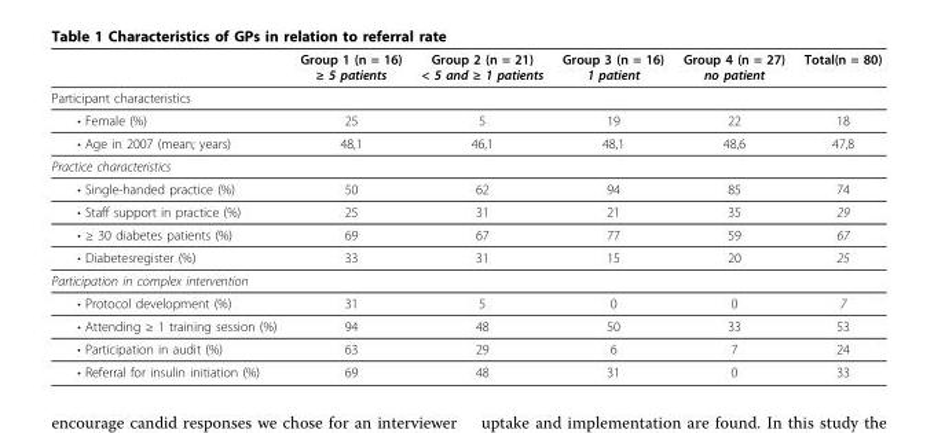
<table><thead><tr><td></td><td>Group 1 (n = 16) ≥ 5 patients</td><td>Group 2 (n = 21) &lt; 5 and ≥ 1 patients</td><td>Group 3 (n = 16) 1 patient</td><td>Group 4 (n = 27) no patient</td><td>Total(n = 80)</td></tr></thead><tbody><tr><td colspan="6">Participant characteristics</td></tr><tr><td>• Female (%)</td><td>25</td><td>5</td><td>19</td><td>22</td><td>18</td></tr><tr><td>• Age in 2007 (mean; years)</td><td>48,1</td><td>46,1</td><td>48,1</td><td>48,6</td><td>47,8</td></tr><tr><td colspan="6">Practice characteristics</td></tr><tr><td>• Single-handed practice (%)</td><td>50</td><td>62</td><td>94</td><td>85</td><td>74</td></tr><tr><td>• Staff support in practice (%)</td><td>25</td><td>31</td><td>21</td><td>35</td><td>29</td></tr><tr><td>• ≥ 30 diabetes patients (%)</td><td>69</td><td>67</td><td>77</td><td>59</td><td>67</td></tr><tr><td>• Diabetesregister (%)</td><td>33</td><td>31</td><td>15</td><td>20</td><td>25</td></tr><tr><td colspan="6">Participation in complex intervention</td></tr><tr><td>• Protocol development (%)</td><td>31</td><td>5</td><td>0</td><td>0</td><td>7</td></tr><tr><td>• Attending ≥ 1 training session (%)</td><td>94</td><td>48</td><td>50</td><td>33</td><td>53</td></tr><tr><td>• Participation in audit (%)</td><td>63</td><td>29</td><td>6</td><td>7</td><td>24</td></tr><tr><td>• Referral for insulin initiation (%)</td><td>69</td><td>48</td><td>31</td><td>0</td><td>33</td></tr></tbody></table>